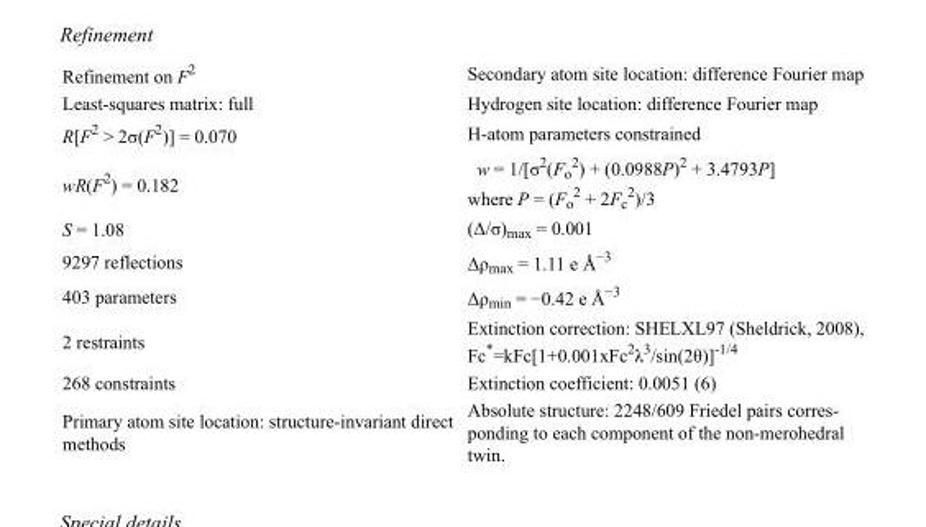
<table><tbody><tr><td>Refinement on F<sup>2</sup></td><td>Secondary atom site location: difference Fourier map</td></tr><tr><td>Least-squares matrix: full</td><td>Hydrogen site location: difference Fourier map</td></tr><tr><td>R[F<sup>2</sup> &gt; 2σ(F<sup>2</sup>)] = 0.070</td><td>H-atom parameters constrained</td></tr><tr><td>wR(F<sup>2</sup>) = 0.182</td><td>w = 1/[σ<sup>2</sup>(F<sub>o</sub> <sup>2</sup>) + (0.0988P)<sup>2</sup> + 3.4793P] where P = (F<sub>o</sub> <sup>2</sup> + 2F<sub>c</sub> <sup>2</sup>)/3</td></tr><tr><td>S = 1.08</td><td>(Δ/σ)<sub>max</sub> = 0.001</td></tr><tr><td>9297 reflections</td><td>Δρ<sub>max</sub> = 1.11 e Å<sup>−3</sup></td></tr><tr><td>403 parameters</td><td>Δρ<sub>min</sub> = −0.42 e Å<sup>−3</sup></td></tr><tr><td>2 restraints</td><td>Extinction correction: SHELXL97 (Sheldrick, 2008), Fc*=kFc[1+0.001xFc<sup>2</sup>λ<sup>3</sup>/sin(2θ)]<sup>-1/4</sup></td></tr><tr><td>268 constraints</td><td>Extinction coefficient: 0.0051 (6)</td></tr><tr><td>Primary atom site location: structure-invariant direct methods</td><td>Absolute structure: 2248/609 Friedel pairs corres- ponding to each component of the non-merohedral twin.</td></tr></tbody></table>